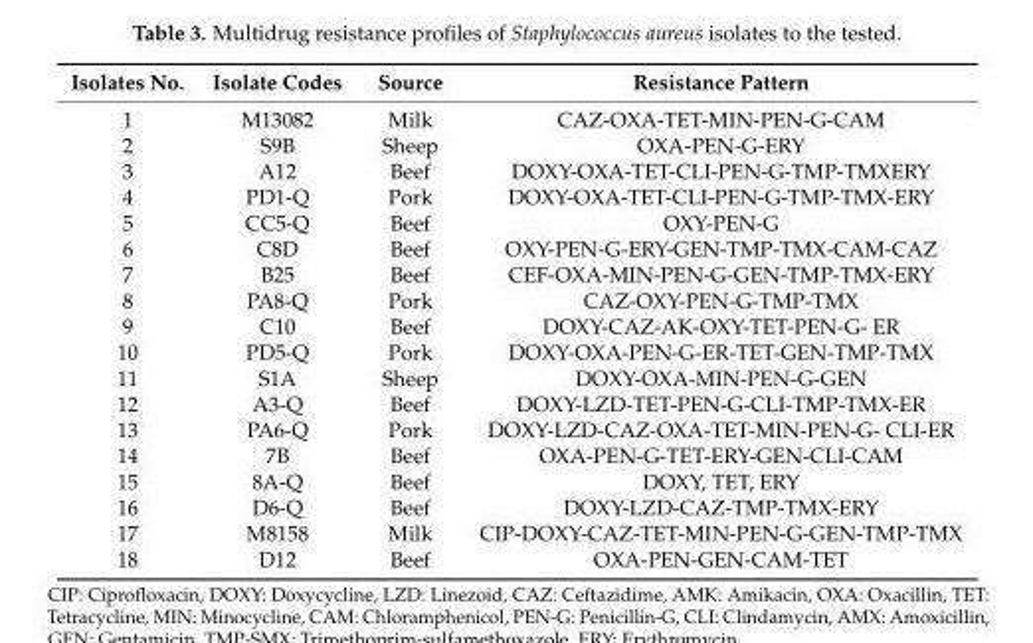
<table><thead><tr><td>Isolates No.</td><td>Isolate Codes</td><td>Source</td><td>Resistance Pattern</td></tr></thead><tbody><tr><td>1</td><td>M13082</td><td>Milk</td><td>CAZ-OXA-TET-MIN-PEN-G-CAM</td></tr><tr><td>2</td><td>S9B</td><td>Sheep</td><td>OXA-PEN-G-ERY</td></tr><tr><td>3</td><td>A12</td><td>Beef</td><td>DOXY-OXA-TET-CLI-PEN-G-TMP-TMXERY</td></tr><tr><td>4</td><td>PD1-Q</td><td>Pork</td><td>DOXY-OXA-TET-CLI-PEN-G-TMP-TMX-ERY</td></tr><tr><td>5</td><td>CC5-Q</td><td>Beef</td><td>OXY-PEN-G</td></tr><tr><td>6</td><td>C8D</td><td>Beef</td><td>OXY-PEN-G-ERY-GEN-TMP-TMX-CAM-CAZ</td></tr><tr><td>7</td><td>B25</td><td>Beef</td><td>CEF-OXA-MIN-PEN-G-GEN-TMP-TMX-ERY</td></tr><tr><td>8</td><td>PA8-Q</td><td>Pork</td><td>CAZ-OXY-PEN-G-TMP-TMX</td></tr><tr><td>9</td><td>C10</td><td>Beef</td><td>DOXY-CAZ-AK-OXY-TET-PEN-G- ER</td></tr><tr><td>10</td><td>PD5-Q</td><td>Pork</td><td>DOXY-OXA-PEN-G-ER-TET-GEN-TMP-TMX</td></tr><tr><td>11</td><td>S1A</td><td>Sheep</td><td>DOXY-OXA-MIN-PEN-G-GEN</td></tr><tr><td>12</td><td>A3-Q</td><td>Beef</td><td>DOXY-LZD-TET-PEN-G-CLI-TMP-TMX-ER</td></tr><tr><td>13</td><td>PA6-Q</td><td>Pork</td><td>DOXY-LZD-CAZ-OXA-TET-MIN-PEN-G- CLI-ER</td></tr><tr><td>14</td><td>7B</td><td>Beef</td><td>OXA-PEN-G-TET-ERY-GEN-CLI-CAM</td></tr><tr><td>15</td><td>8A-Q</td><td>Beef</td><td>DOXY, TET, ERY</td></tr><tr><td>16</td><td>D6-Q</td><td>Beef</td><td>DOXY-LZD-CAZ-TMP-TMX-ERY</td></tr><tr><td>17</td><td>M8158</td><td>Milk</td><td>CIP-DOXY-CAZ-TET-MIN-PEN-G-GEN-TMP-TMX</td></tr><tr><td>18</td><td>D12</td><td>Beef</td><td>OXA-PEN-GEN-CAM-TET</td></tr></tbody></table>